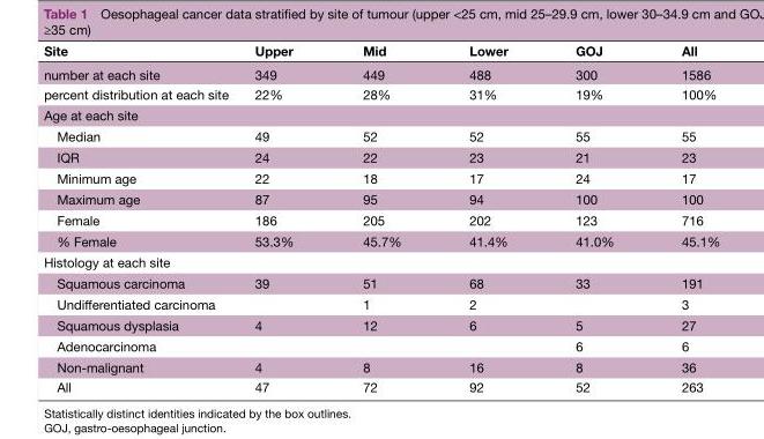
<table><thead><tr><td>Site</td><td>Upper</td><td>Mid</td><td>Lower</td><td>GOJ</td><td>All</td></tr></thead><tbody><tr><td>number at each site</td><td>349</td><td>449</td><td>488</td><td>300</td><td>1586</td></tr><tr><td>percent distribution at each site</td><td>22%</td><td>28%</td><td>31%</td><td>19%</td><td>100%</td></tr><tr><td colspan="6">Age at each site</td></tr><tr><td>Median</td><td>49</td><td>52</td><td>52</td><td>55</td><td>55</td></tr><tr><td>IQR</td><td>24</td><td>22</td><td>23</td><td>21</td><td>23</td></tr><tr><td>Minimum age</td><td>22</td><td>18</td><td>17</td><td>24</td><td>17</td></tr><tr><td>Maximum age</td><td>87</td><td>95</td><td>94</td><td>100</td><td>100</td></tr><tr><td>Female</td><td>186</td><td>205</td><td>202</td><td>123</td><td>716</td></tr><tr><td>% Female</td><td>53.3%</td><td>45.7%</td><td>41.4%</td><td>41.0%</td><td>45.1%</td></tr><tr><td colspan="6">Histology at each site</td></tr><tr><td>Squamous carcinoma</td><td>39</td><td>51</td><td>68</td><td>33</td><td>191</td></tr><tr><td>Undifferentiated carcinoma</td><td></td><td>1</td><td>2</td><td></td><td>3</td></tr><tr><td>Squamous dysplasia</td><td>4</td><td>12</td><td>6</td><td>5</td><td>27</td></tr><tr><td>Adenocarcinoma</td><td></td><td></td><td></td><td>6</td><td>6</td></tr><tr><td>Non-malignant</td><td>4</td><td>8</td><td>16</td><td>8</td><td>36</td></tr><tr><td>All</td><td>47</td><td>72</td><td>92</td><td>52</td><td>263</td></tr></tbody></table>